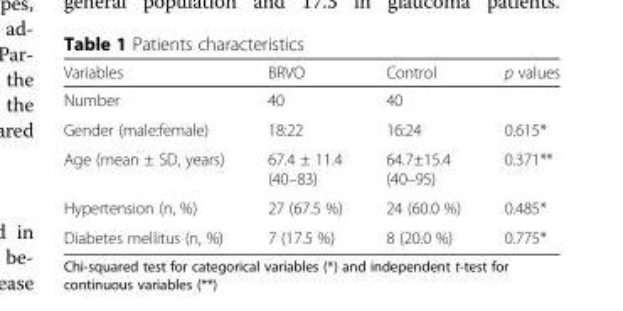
<table><thead><tr><td>Variables</td><td>BRVO</td><td>Control</td><td>p values</td></tr></thead><tbody><tr><td>Number</td><td>40</td><td>40</td><td></td></tr><tr><td>Gender (male:female)</td><td>18:22</td><td>16:24</td><td>0.615*</td></tr><tr><td>Age (mean ± SD, years)</td><td>67.4 ± 11.4 (40–83)</td><td>64.7±15.4 (40–95)</td><td>0.371**</td></tr><tr><td>Hypertension (n, %)</td><td>27 (67.5 %)</td><td>24 (60.0 %)</td><td>0.485*</td></tr><tr><td>Diabetes mellitus (n, %)</td><td>7 (17.5 %)</td><td>8 (20.0 %)</td><td>0.775*</td></tr></tbody></table>